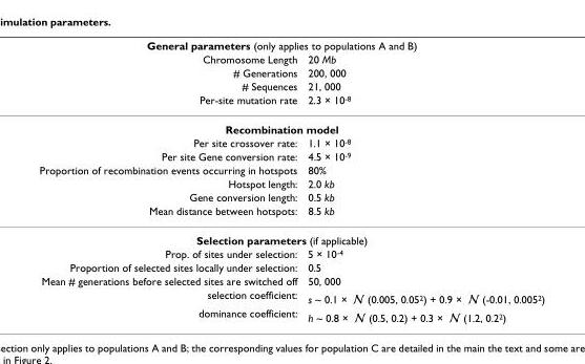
<table><thead><tr><td colspan="2">General parameters (only applies to populations A and B)</td></tr><tr><td rowspan="4">Chromosome Length # Generations # Sequences Per-site mutation rate</td><td rowspan="4">20 Mb 200, 000 21, 000 2.3 × 10<sup>-8</sup></td></tr><tr></tr><tr></tr><tr></tr></thead><tbody><tr><td colspan="2">Recombination model</td></tr><tr><td>Per site crossover rate:</td><td>1.1 × 10<sup>-8</sup></td></tr><tr><td>Per site Gene conversion rate:</td><td>4.5 × 10<sup>-9</sup></td></tr><tr><td>Proportion of recombination events occurring in hotspots</td><td>80%</td></tr><tr><td>Hotspot length:</td><td>2.0 kb</td></tr><tr><td>Gene conversion length:</td><td>0.5 kb</td></tr><tr><td>Mean distance between hotspots:</td><td>8.5 kb</td></tr><tr><td colspan="2">Selection parameters (if applicable)</td></tr><tr><td>Prop. of sites under selection:</td><td>5 × 10<sup>-4</sup></td></tr><tr><td>Proportion of selected sites locally under selection:</td><td>0.5</td></tr><tr><td>Mean # generations before selected sites are switched off</td><td>50, 000</td></tr><tr><td>selection coefficient:</td><td>s ~ 0.1 × (0.005, 0.052) + 0.9 × (-0.01, 0.0052)  </td></tr><tr><td>dominance coefficient:</td><td>h ~ 0.8 × (0.5, 0.2) + 0.3 × (1.2, 0.22)  </td></tr></tbody></table>